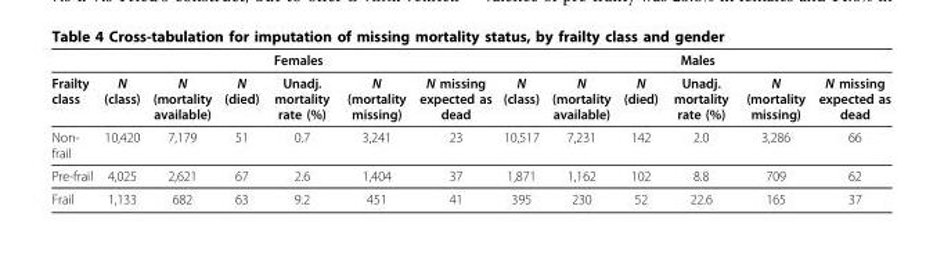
<table><thead><tr><td rowspan="2">Frailty class</td><td colspan="6">Females</td><td colspan="6">Males</td></tr><tr><td>N (class)</td><td>N (mortality available)</td><td>N (died)</td><td>Unadj. mortality rate (%)</td><td>N (mortality missing)</td><td>N missing expected as dead</td><td>N (class)</td><td>N (mortality available)</td><td>N (died)</td><td>Unadj. mortality rate (%)</td><td>N (mortality missing)</td><td>N missing expected as dead</td></tr></thead><tbody><tr><td>Non- frail</td><td>10,420</td><td>7,179</td><td>51</td><td>0.7</td><td>3,241</td><td>23</td><td>10,517</td><td>7,231</td><td>142</td><td>2.0</td><td>3,286</td><td>66</td></tr><tr><td>Pre-frail</td><td>4,025</td><td>2,621</td><td>67</td><td>2.6</td><td>1,404</td><td>37</td><td>1,871</td><td>1,162</td><td>102</td><td>8.8</td><td>709</td><td>62</td></tr><tr><td>Frail</td><td>1,133</td><td>682</td><td>63</td><td>9.2</td><td>451</td><td>41</td><td>395</td><td>230</td><td>52</td><td>22.6</td><td>165</td><td>37</td></tr></tbody></table>